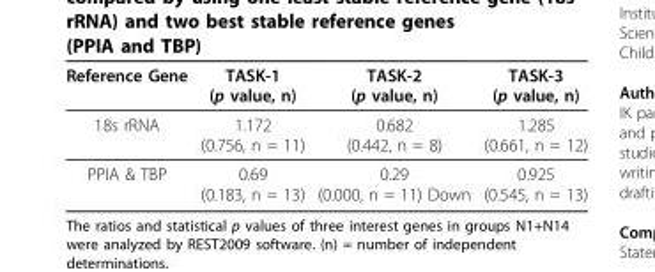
<table><thead><tr><td>Reference Gene</td><td>TASK-1 (p value, n)</td><td>TASK-2 (p value, n)</td><td>TASK-3 (p value, n)</td></tr></thead><tbody><tr><td>18s rRNA</td><td>1.172 (0.756, n = 11)</td><td>0.682 (0.442, n = 8)</td><td>1.285 (0.661, n = 12)</td></tr><tr><td>PPIA &amp; TBP</td><td>0.69 (0.183, n = 13)</td><td>0.29 (0.000, n = 11) Down</td><td>0.925 (0.545, n = 13)</td></tr></tbody></table>